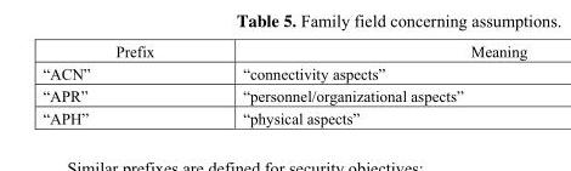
<table><thead><tr><td>Prefix</td><td>Meaning</td></tr></thead><tbody><tr><td>“ACN”</td><td>“connectivity aspects”</td></tr><tr><td>“APR”</td><td>“personnel/organizational aspects”</td></tr><tr><td>“APH”</td><td>“physical aspects”</td></tr></tbody></table>